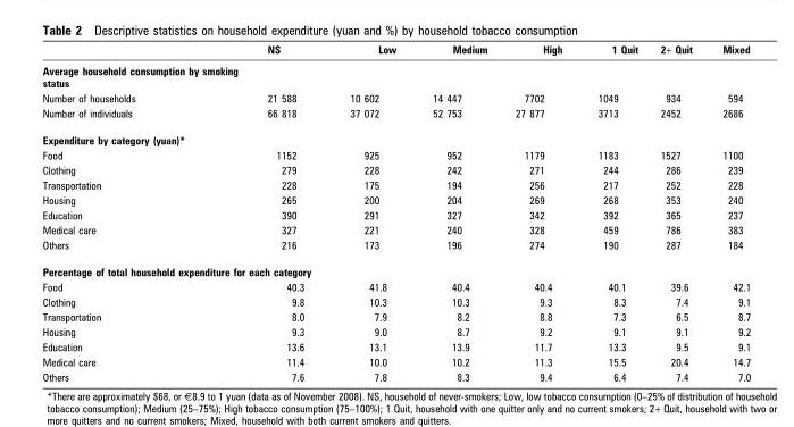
<table><thead><tr><td></td><td>NS</td><td>Low</td><td>Medium</td><td>High</td><td>1 Quit</td><td>2+ Quit</td><td>Mixed</td></tr></thead><tbody><tr><td colspan="8">Average household consumption by smoking status</td></tr><tr><td>Number of households</td><td>21 588</td><td>10 602</td><td>14 447</td><td>7702</td><td>1049</td><td>934</td><td>594</td></tr><tr><td>Number of individuals</td><td>66 818</td><td>37 072</td><td>52 753</td><td>27 877</td><td>3713</td><td>2452</td><td>2686</td></tr><tr><td colspan="8">Expenditure by category (yuan)*</td></tr><tr><td>Food</td><td>1152</td><td>925</td><td>952</td><td>1179</td><td>1183</td><td>1527</td><td>1100</td></tr><tr><td>Clothing</td><td>279</td><td>228</td><td>242</td><td>271</td><td>244</td><td>286</td><td>239</td></tr><tr><td>Transportation</td><td>228</td><td>175</td><td>194</td><td>256</td><td>217</td><td>252</td><td>228</td></tr><tr><td>Housing</td><td>265</td><td>200</td><td>204</td><td>269</td><td>268</td><td>353</td><td>240</td></tr><tr><td>Education</td><td>390</td><td>291</td><td>327</td><td>342</td><td>392</td><td>365</td><td>237</td></tr><tr><td>Medical care</td><td>327</td><td>221</td><td>240</td><td>328</td><td>459</td><td>786</td><td>383</td></tr><tr><td>Others</td><td>216</td><td>173</td><td>196</td><td>274</td><td>190</td><td>287</td><td>184</td></tr><tr><td colspan="8">Percentage of total household expenditure for each category</td></tr><tr><td>Food</td><td>40.3</td><td>41.8</td><td>40.4</td><td>40.4</td><td>40.1</td><td>39.6</td><td>42.1</td></tr><tr><td>Clothing</td><td>9.8</td><td>10.3</td><td>10.3</td><td>9.3</td><td>8.3</td><td>7.4</td><td>9.1</td></tr><tr><td>Transportation</td><td>8.0</td><td>7.9</td><td>8.2</td><td>8.8</td><td>7.3</td><td>6.5</td><td>8.7</td></tr><tr><td>Housing</td><td>9.3</td><td>9.0</td><td>8.7</td><td>9.2</td><td>9.1</td><td>9.1</td><td>9.2</td></tr><tr><td>Education</td><td>13.6</td><td>13.1</td><td>13.9</td><td>11.7</td><td>13.3</td><td>9.5</td><td>9.1</td></tr><tr><td>Medical care</td><td>11.4</td><td>10.0</td><td>10.2</td><td>11.3</td><td>15.5</td><td>20.4</td><td>14.7</td></tr><tr><td>Others</td><td>7.6</td><td>7.8</td><td>8.3</td><td>9.4</td><td>6.4</td><td>7.4</td><td>7.0</td></tr></tbody></table>